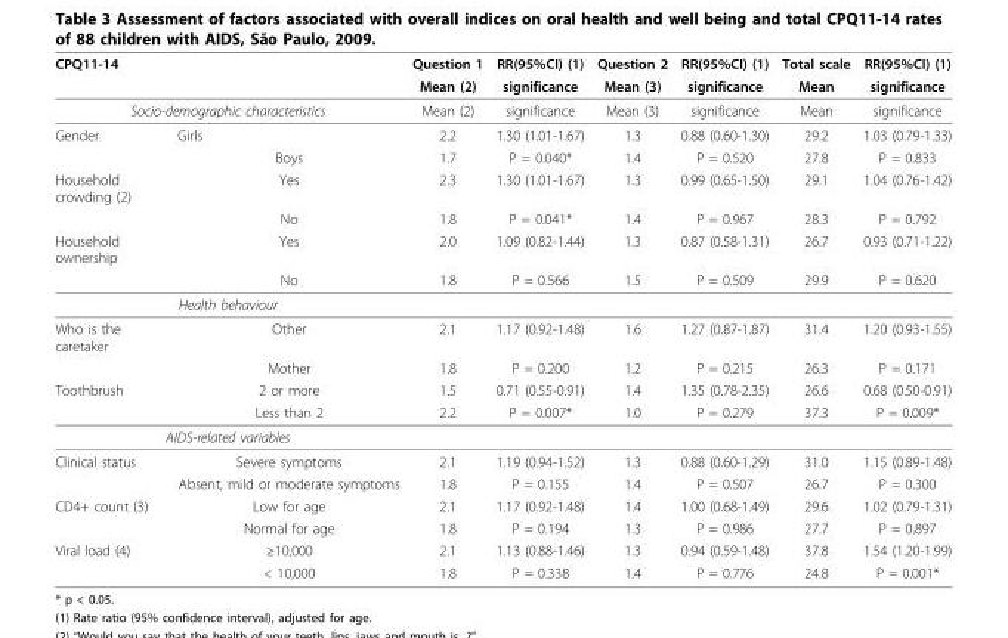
<table><thead><tr><td rowspan="2">CPQ11-14</td><td rowspan="2"></td><td rowspan="2">Question 1 Mean (2)</td><td rowspan="2">RR(95%CI) (1) significance</td><td rowspan="2">Question 2 Mean (3)</td><td rowspan="2">RR(95%CI) (1) significance</td><td rowspan="2">Total scale Mean</td><td rowspan="2">RR(95%CI) (1) significance</td></tr><tr></tr></thead><tbody><tr><td colspan="2">Socio-demographic characteristics</td><td>Mean (2)</td><td>significance</td><td>Mean (3)</td><td>significance</td><td>Mean</td><td>significance</td></tr><tr><td rowspan="2">Gender</td><td>Girls</td><td>2.2</td><td>1.30 (1.01-1.67)</td><td>1.3</td><td>0.88 (0.60-1.30)</td><td>29.2</td><td>1.03 (0.79-1.33)</td></tr><tr><td>Boys</td><td>1.7</td><td>P = 0.040*</td><td>1.4</td><td>P = 0.520</td><td>27.8</td><td>P = 0.833</td></tr><tr><td rowspan="2">Household crowding (2)</td><td>Yes</td><td>2.3</td><td>1.30 (1.01-1.67)</td><td>1.3</td><td>0.99 (0.65-1.50)</td><td>29.1</td><td>1.04 (0.76-1.42)</td></tr><tr><td>No</td><td>1.8</td><td>P = 0.041*</td><td>1.4</td><td>P = 0.967</td><td>28.3</td><td>P = 0.792</td></tr><tr><td rowspan="2">Household ownership</td><td>Yes</td><td>2.0</td><td>1.09 (0.82-1.44)</td><td>1.3</td><td>0.87 (0.58-1.31)</td><td>26.7</td><td>0.93 (0.71-1.22)</td></tr><tr><td>No</td><td>1.8</td><td>P = 0.566</td><td>1.5</td><td>P = 0.509</td><td>29.9</td><td>P = 0.620</td></tr><tr><td colspan="8">Health behaviour</td></tr><tr><td rowspan="2">Who is the caretaker</td><td>Other</td><td>2.1</td><td>1.17 (0.92-1.48)</td><td>1.6</td><td>1.27 (0.87-1.87)</td><td>31.4</td><td>1.20 (0.93-1.55)</td></tr><tr><td>Mother</td><td>1.8</td><td>P = 0.200</td><td>1.2</td><td>P = 0.215</td><td>26.3</td><td>P = 0.171</td></tr><tr><td rowspan="2">Toothbrush</td><td>2 or more</td><td>1.5</td><td>0.71 (0.55-0.91)</td><td>1.4</td><td>1.35 (0.78-2.35)</td><td>26.6</td><td>0.68 (0.50-0.91)</td></tr><tr><td>Less than 2</td><td>2.2</td><td>P = 0.007*</td><td>1.0</td><td>P = 0.279</td><td>37.3</td><td>P = 0.009*</td></tr><tr><td colspan="8">AIDS-related variables</td></tr><tr><td rowspan="2">Clinical status</td><td>Severe symptoms</td><td>2.1</td><td>1.19 (0.94-1.52)</td><td>1.3</td><td>0.88 (0.60-1.29)</td><td>31.0</td><td>1.15 (0.89-1.48)</td></tr><tr><td>Absent, mild or moderate symptoms</td><td>1.8</td><td>P = 0.155</td><td>1.4</td><td>P = 0.507</td><td>26.7</td><td>P = 0.300</td></tr><tr><td rowspan="2">CD4+ count (3)</td><td>Low for age</td><td>2.1</td><td>1.17 (0.92-1.48)</td><td>1.4</td><td>1.00 (0.68-1.49)</td><td>29.6</td><td>1.02 (0.79-1.31)</td></tr><tr><td>Normal for age</td><td>1.8</td><td>P = 0.194</td><td>1.3</td><td>P = 0.986</td><td>27.7</td><td>P = 0.897</td></tr><tr><td rowspan="2">Viral load (4)</td><td>≥10,000</td><td>2.1</td><td>1.13 (0.88-1.46)</td><td>1.3</td><td>0.94 (0.59-1.48)</td><td>37.8</td><td>1.54 (1.20-1.99)</td></tr><tr><td>&lt; 10,000</td><td>1.8</td><td>P = 0.338</td><td>1.4</td><td>P = 0.776</td><td>24.8</td><td>P = 0.001*</td></tr></tbody></table>